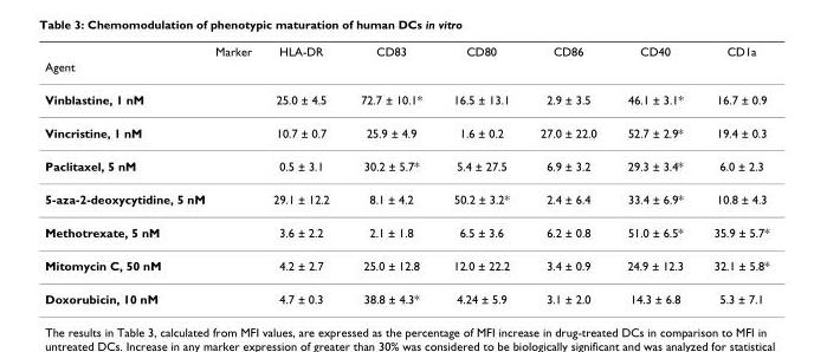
<table><thead><tr><td rowspan="2">Marker Agent</td><td rowspan="2">HLA-DR</td><td rowspan="2">CD83</td><td rowspan="2">CD80</td><td rowspan="2">CD86</td><td rowspan="2">CD40</td><td rowspan="2">CD1a</td></tr><tr></tr></thead><tbody><tr><td>Vinblastine, 1 nM</td><td>25.0 ± 4.5</td><td>72.7 ± 10.1*</td><td>16.5 ± 13.1</td><td>2.9 ± 3.5</td><td>46.1 ± 3.1*</td><td>16.7 ± 0.9</td></tr><tr><td>Vincristine, 1 nM</td><td>10.7 ± 0.7</td><td>25.9 ± 4.9</td><td>1.6 ± 0.2</td><td>27.0 ± 22.0</td><td>52.7 ± 2.9*</td><td>19.4 ± 0.3</td></tr><tr><td>Paclitaxel, 5 nM</td><td>0.5 ± 3.1</td><td>30.2 ± 5.7*</td><td>5.4 ± 27.5</td><td>6.9 ± 3.2</td><td>29.3 ± 3.4*</td><td>6.0 ± 2.3</td></tr><tr><td>5-aza-2-deoxycytidine, 5 nM</td><td>29.1 ± 12.2</td><td>8.1 ± 4.2</td><td>50.2 ± 3.2*</td><td>2.4 ± 6.4</td><td>33.4 ± 6.9*</td><td>10.8 ± 4.3</td></tr><tr><td>Methotrexate, 5 nM</td><td>3.6 ± 2.2</td><td>2.1 ± 1.8</td><td>6.5 ± 3.6</td><td>6.2 ± 0.8</td><td>51.0 ± 6.5*</td><td>35.9 ± 5.7*</td></tr><tr><td>Mitomycin C, 50 nM</td><td>4.2 ± 2.7</td><td>25.0 ± 12.8</td><td>12.0 ± 22.2</td><td>3.4 ± 0.9</td><td>24.9 ± 12.3</td><td>32.1 ± 5.8*</td></tr><tr><td>Doxorubicin, 10 nM</td><td>4.7 ± 0.3</td><td>38.8 ± 4.3*</td><td>4.24 ± 5.9</td><td>3.1 ± 2.0</td><td>14.3 ± 6.8</td><td>5.3 ± 7.1</td></tr></tbody></table>